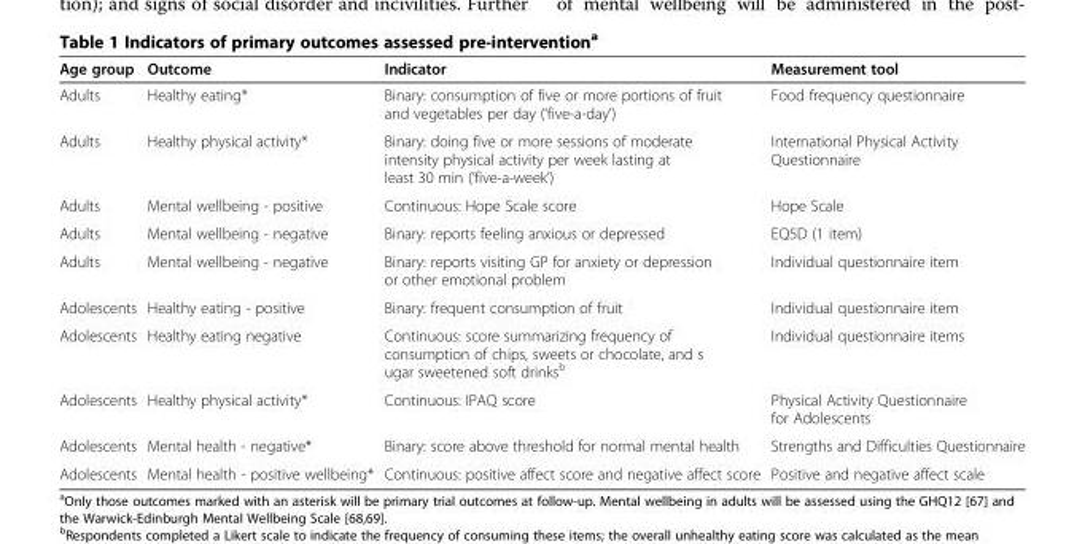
<table><thead><tr><td>Age group</td><td>Outcome</td><td>Indicator</td><td>Measurement tool</td></tr></thead><tbody><tr><td>Adults</td><td>Healthy eating*</td><td>Binary: consumption of five or more portions of fruit and vegetables per day (‘five-a-day’)</td><td>Food frequency questionnaire</td></tr><tr><td>Adults</td><td>Healthy physical activity*</td><td>Binary: doing five or more sessions of moderate intensity physical activity per week lasting at least 30 min (‘five-a-week’)</td><td>International Physical Activity Questionnaire</td></tr><tr><td>Adults</td><td>Mental wellbeing - positive</td><td>Continuous: Hope Scale score</td><td>Hope Scale</td></tr><tr><td>Adults</td><td>Mental wellbeing - negative</td><td>Binary: reports feeling anxious or depressed</td><td>EQ5D (1 item)</td></tr><tr><td>Adults</td><td>Mental wellbeing - negative</td><td>Binary: reports visiting GP for anxiety or depression or other emotional problem</td><td>Individual questionnaire item</td></tr><tr><td>Adolescents</td><td>Healthy eating - positive</td><td>Binary: frequent consumption of fruit</td><td>Individual questionnaire item</td></tr><tr><td>Adolescents</td><td>Healthy eating negative</td><td>Continuous: score summarizing frequency of consumption of chips, sweets or chocolate, and s ugar sweetened soft drinks<sup>b</sup></td><td>Individual questionnaire items</td></tr><tr><td>Adolescents</td><td>Healthy physical activity*</td><td>Continuous: IPAQ score</td><td>Physical Activity Questionnaire for Adolescents</td></tr><tr><td>Adolescents</td><td>Mental health - negative*</td><td>Binary: score above threshold for normal mental health</td><td>Strengths and Difficulties Questionnaire</td></tr><tr><td>Adolescents</td><td>Mental health - positive wellbeing*</td><td>Continuous: positive affect score and negative affect score</td><td>Positive and negative affect scale</td></tr></tbody></table>